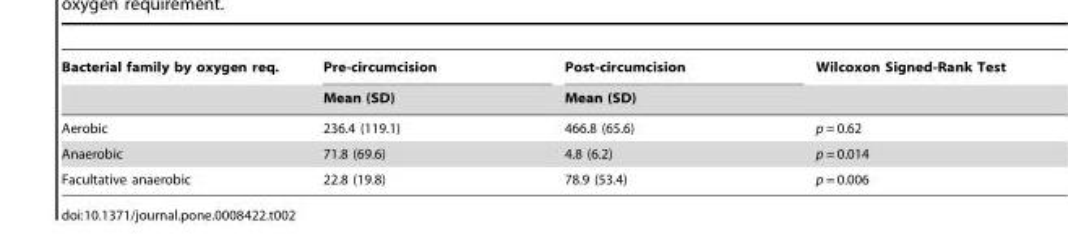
<table><thead><tr><td rowspan="2">Bacterial family by oxygen req.</td><td rowspan="2">Pre-circumcision Mean (SD)</td><td rowspan="2">Post-circumcision Mean (SD)</td><td rowspan="2">Wilcoxon Signed-Rank Test</td></tr><tr></tr></thead><tbody><tr><td>Aerobic</td><td>236.4 (119.1)</td><td>466.8 (65.6)</td><td>p = 0.62</td></tr><tr><td>Anaerobic</td><td>71.8 (69.6)</td><td>4.8 (6.2)</td><td>p = 0.014</td></tr><tr><td>Facultative anaerobic</td><td>22.8 (19.8)</td><td>78.9 (53.4)</td><td>p = 0.006</td></tr></tbody></table>